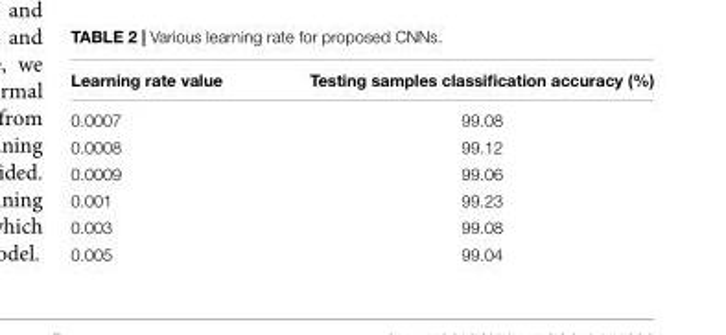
<table><thead><tr><td>Learning rate value</td><td>Testing samples classification accuracy (%)</td></tr></thead><tbody><tr><td>0.0007</td><td>99.08</td></tr><tr><td>0.0008</td><td>99.12</td></tr><tr><td>0.0009</td><td>99.06</td></tr><tr><td>0.001</td><td>99.23</td></tr><tr><td>0.003</td><td>99.08</td></tr><tr><td>0.005</td><td>99.04</td></tr></tbody></table>